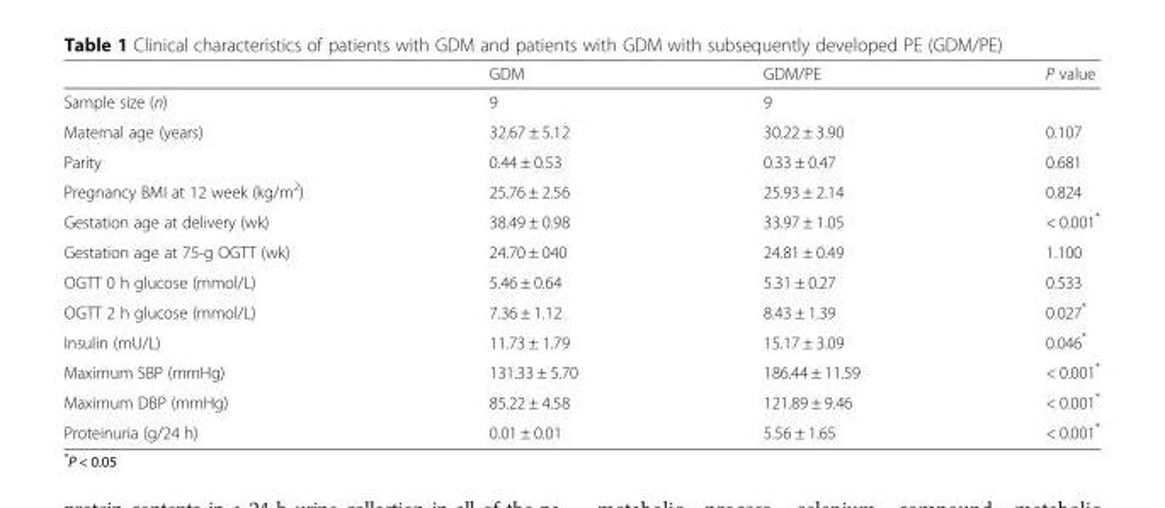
<table><thead><tr><td></td><td>GDM</td><td>GDM/PE</td><td>P value</td></tr></thead><tbody><tr><td>Sample size (n)</td><td>9</td><td>9</td><td></td></tr><tr><td>Maternal age (years)</td><td>32.67 ± 5.12</td><td>30.22 ± 3.90</td><td>0.107</td></tr><tr><td>Parity</td><td>0.44 ± 0.53</td><td>0.33 ± 0.47</td><td>0.681</td></tr><tr><td>Pregnancy BMI at 12 week (kg/m<sup>2</sup>)</td><td>25.76 ± 2.56</td><td>25.93 ± 2.14</td><td>0.824</td></tr><tr><td>Gestation age at delivery (wk)</td><td>38.49 ± 0.98</td><td>33.97 ± 1.05</td><td>&lt; 0.001*</td></tr><tr><td>Gestation age at 75-g OGTT (wk)</td><td>24.70 ± 040</td><td>24.81 ± 0.49</td><td>1.100</td></tr><tr><td>OGTT 0 h glucose (mmol/L)</td><td>5.46 ± 0.64</td><td>5.31 ± 0.27</td><td>0.533</td></tr><tr><td>OGTT 2 h glucose (mmol/L)</td><td>7.36 ± 1.12</td><td>8.43 ± 1.39</td><td>0.027*</td></tr><tr><td>Insulin (mU/L)</td><td>11.73 ± 1.79</td><td>15.17 ± 3.09</td><td>0.046*</td></tr><tr><td>Maximum SBP (mmHg)</td><td>131.33 ± 5.70</td><td>186.44 ± 11.59</td><td>&lt; 0.001*</td></tr><tr><td>Maximum DBP (mmHg)</td><td>85.22 ± 4.58</td><td>121.89 ± 9.46</td><td>&lt; 0.001*</td></tr><tr><td>Proteinuria (g/24 h)</td><td>0.01 ± 0.01</td><td>5.56 ± 1.65</td><td>&lt; 0.001*</td></tr></tbody></table>